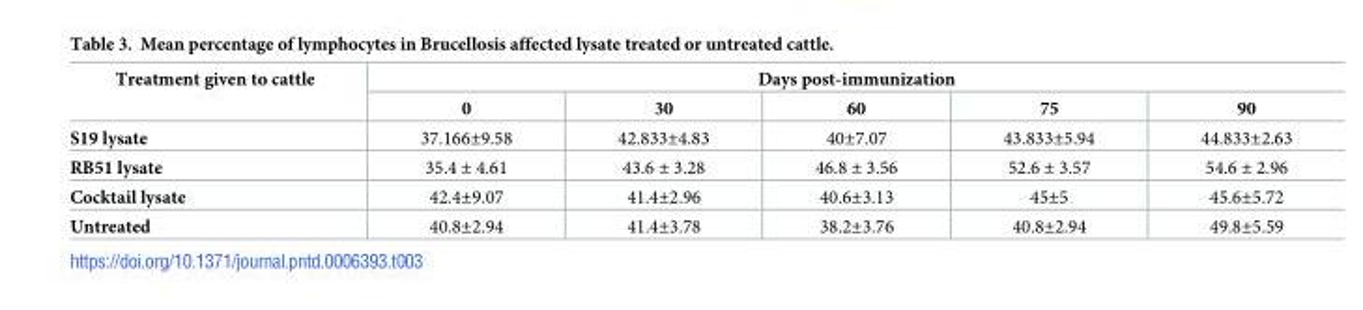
<table><thead><tr><td rowspan="2">Treatment given to cattle</td><td colspan="5">Days post-immunization</td></tr><tr><td>0</td><td>30</td><td>60</td><td>75</td><td>90</td></tr></thead><tbody><tr><td>S19 lysate</td><td>37.166±9.58</td><td>42.833±4.83</td><td>40±7.07</td><td>43.833±5.94</td><td>44.833±2.63</td></tr><tr><td>RB51 lysate</td><td>35.4 ± 4.61</td><td>43.6 ± 3.28</td><td>46.8 ± 3.56</td><td>52.6 ± 3.57</td><td>54.6 ± 2.96</td></tr><tr><td>Cocktail lysate</td><td>42.4±9.07</td><td>41.4±2.96</td><td>40.6±3.13</td><td>45±5</td><td>45.6±5.72</td></tr><tr><td>Untreated</td><td>40.8±2.94</td><td>41.4±3.78</td><td>38.2±3.76</td><td>40.8±2.94</td><td>49.8±5.59</td></tr></tbody></table>